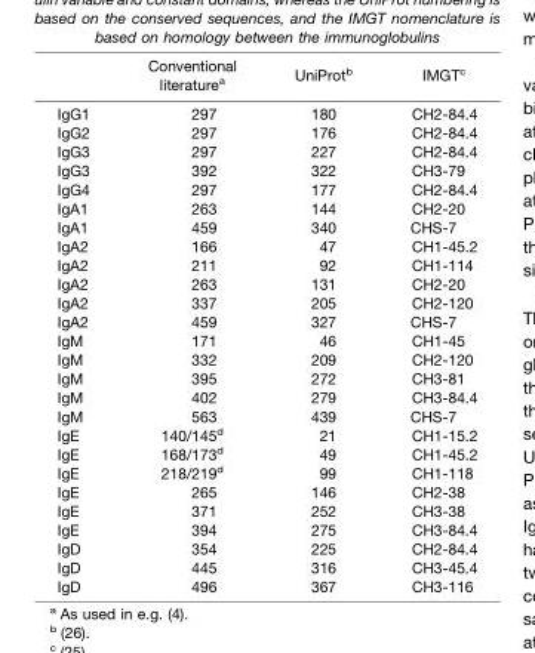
<table><thead><tr><td></td><td>Conventional literature<sup>a</sup></td><td>UniProt<sup>b</sup></td><td>IMGT<sup>c</sup></td></tr></thead><tbody><tr><td>IgG1</td><td>297</td><td>180</td><td>CH2-84.4</td></tr><tr><td>IgG2</td><td>297</td><td>176</td><td>CH2-84.4</td></tr><tr><td>IgG3</td><td>297</td><td>227</td><td>CH2-84.4</td></tr><tr><td>IgG3</td><td>392</td><td>322</td><td>CH3-79</td></tr><tr><td>IgG4</td><td>297</td><td>177</td><td>CH2-84.4</td></tr><tr><td>IgA1</td><td>263</td><td>144</td><td>CH2-20</td></tr><tr><td>IgA1</td><td>459</td><td>340</td><td>CHS-7</td></tr><tr><td>IgA2</td><td>166</td><td>47</td><td>CH1-45.2</td></tr><tr><td>IgA2</td><td>211</td><td>92</td><td>CH1-114</td></tr><tr><td>IgA2</td><td>263</td><td>131</td><td>CH2-20</td></tr><tr><td>IgA2</td><td>337</td><td>205</td><td>CH2-120</td></tr><tr><td>IgA2</td><td>459</td><td>327</td><td>CHS-7</td></tr><tr><td>IgM</td><td>171</td><td>46</td><td>CH1-45</td></tr><tr><td>IgM</td><td>332</td><td>209</td><td>CH2-120</td></tr><tr><td>IgM</td><td>395</td><td>272</td><td>CH3-81</td></tr><tr><td>IgM</td><td>402</td><td>279</td><td>CH3-84.4</td></tr><tr><td>IgM</td><td>563</td><td>439</td><td>CHS-7</td></tr><tr><td>IgE</td><td>140/145<sup>d</sup></td><td>21</td><td>CH1-15.2</td></tr><tr><td>IgE</td><td>168/173<sup>d</sup></td><td>49</td><td>CH1-45.2</td></tr><tr><td>IgE</td><td>218/219<sup>d</sup></td><td>99</td><td>CH1-118</td></tr><tr><td>IgE</td><td>265</td><td>146</td><td>CH2-38</td></tr><tr><td>IgE</td><td>371</td><td>252</td><td>CH3-38</td></tr><tr><td>IgE</td><td>394</td><td>275</td><td>CH3-84.4</td></tr><tr><td>IgD</td><td>354</td><td>225</td><td>CH2-84.4</td></tr><tr><td>IgD</td><td>445</td><td>316</td><td>CH3-45.4</td></tr><tr><td>IgD</td><td>496</td><td>367</td><td>CH3-116</td></tr></tbody></table>